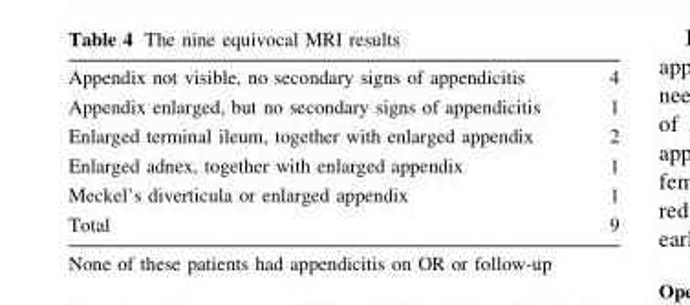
<table><tbody><tr><td>Appendix not visible, no secondary signs of appendicitis</td><td>4</td></tr><tr><td>Appendix enlarged, but no secondary signs of appendicitis</td><td>1</td></tr><tr><td>Enlarged terminal ileum, together with enlarged appendix</td><td>2</td></tr><tr><td>Enlarged adnex, together with enlarged appendix</td><td>1</td></tr><tr><td>Meckel’s diverticula or enlarged appendix</td><td>1</td></tr><tr><td>Total</td><td>9</td></tr></tbody></table>